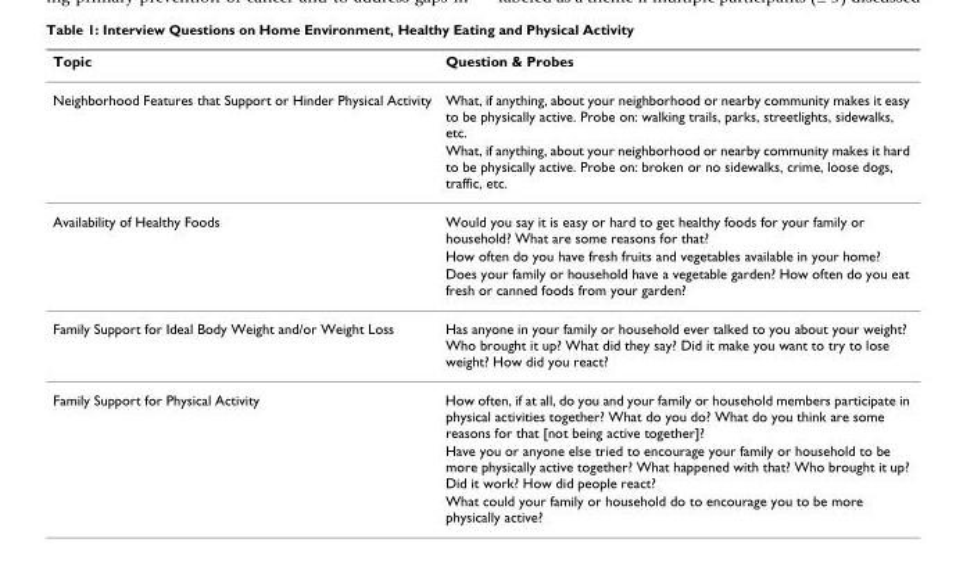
<table><thead><tr><td>Topic</td><td>Question &amp; Probes</td></tr></thead><tbody><tr><td rowspan="2">Neighborhood Features that Support or Hinder Physical Activity</td><td>What, if anything, about your neighborhood or nearby community makes it easy to be physically active. Probe on: walking trails, parks, streetlights, sidewalks, etc.</td></tr><tr><td>What, if anything, about your neighborhood or nearby community makes it hard to be physically active. Probe on: broken or no sidewalks, crime, loose dogs, traffic, etc.</td></tr><tr><td rowspan="3">Availability of Healthy Foods</td><td>Would you say it is easy or hard to get healthy foods for your family or household? What are some reasons for that?</td></tr><tr><td>How often do you have fresh fruits and vegetables available in your home?</td></tr><tr><td>Does your family or household have a vegetable garden? How often do you eat fresh or canned foods from your garden?</td></tr><tr><td>Family Support for Ideal Body Weight and/or Weight Loss</td><td>Has anyone in your family or household ever talked to you about your weight? Who brought it up? What did they say? Did it make you want to try to lose weight? How did you react?</td></tr><tr><td rowspan="3">Family Support for Physical Activity</td><td>How often, if at all, do you and your family or household members participate in physical activities together? What do you do? What do you think are some reasons for that [not being active together]?</td></tr><tr><td>Have you or anyone else tried to encourage your family or household to be more physically active together? What happened with that? Who brought it up? Did it work? How did people react?</td></tr><tr><td>What could your family or household do to encourage you to be more physically active?</td></tr></tbody></table>